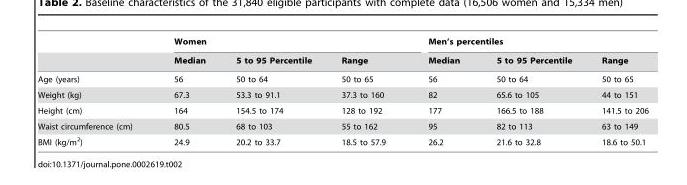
<table><thead><tr><td rowspan="2"></td><td colspan="3">Women</td><td colspan="3">Men’s percentiles</td></tr><tr><td>Median</td><td>5 to 95 Percentile</td><td>Range</td><td>Median</td><td>5 to 95 Percentile</td><td>Range</td></tr></thead><tbody><tr><td>Age (years)</td><td>56</td><td>50 to 64</td><td>50 to 65</td><td>56</td><td>50 to 64</td><td>50 to 65</td></tr><tr><td>Weight (kg)</td><td>67.3</td><td>53.3 to 91.1</td><td>37.3 to 160</td><td>82</td><td>65.6 to 105</td><td>44 to 151</td></tr><tr><td>Height (cm)</td><td>164</td><td>154.5 to 174</td><td>128 to 192</td><td>177</td><td>166.5 to 188</td><td>141.5 to 206</td></tr><tr><td>Waist circumference (cm)</td><td>80.5</td><td>68 to 103</td><td>55 to 162</td><td>95</td><td>82 to 113</td><td>63 to 149</td></tr><tr><td>BMI (kg/m<sup>2</sup>)</td><td>24.9</td><td>20.2 to 33.7</td><td>18.5 to 57.9</td><td>26.2</td><td>21.6 to 32.8</td><td>18.6 to 50.1</td></tr></tbody></table>